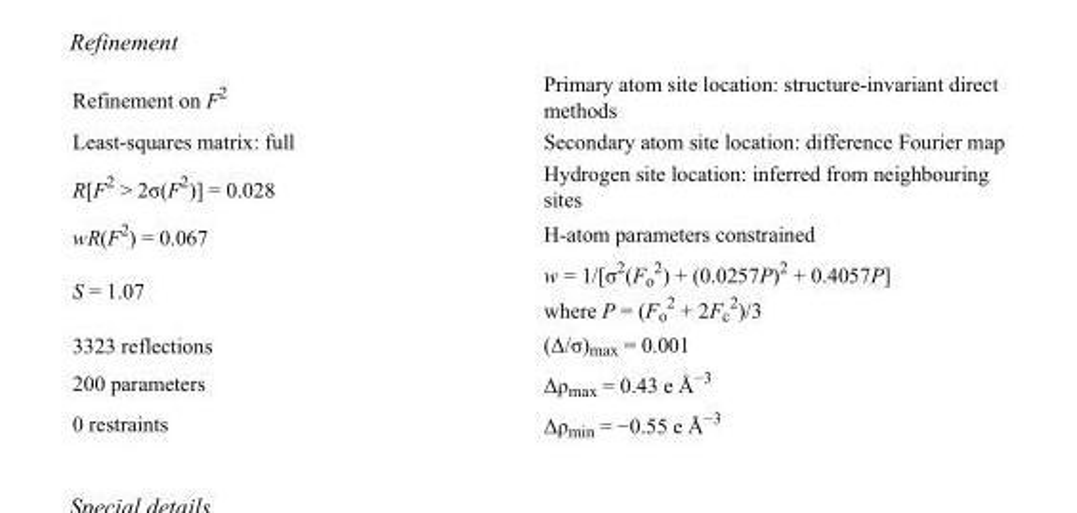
<table><tbody><tr><td>Refinement on F<sup>2</sup></td><td>Primary atom site location: structure-invariant direct methods</td></tr><tr><td>Least-squares matrix: full</td><td>Secondary atom site location: difference Fourier map</td></tr><tr><td>R[F<sup>2</sup> &gt; 2σ(F<sup>2</sup>)] = 0.028</td><td>Hydrogen site location: inferred from neighbouring sites</td></tr><tr><td>wR(F<sup>2</sup>) = 0.067</td><td>H-atom parameters constrained</td></tr><tr><td>S = 1.07</td><td>w = 1/[σ<sup>2</sup>(F<sub>o</sub> <sup>2</sup>) + (0.0257P)<sup>2</sup> + 0.4057P] where P = (F<sub>o</sub> <sup>2</sup> + 2F<sub>c</sub> <sup>2</sup>)/3</td></tr><tr><td>3323 reflections</td><td>(Δ/σ)<sub>max</sub> = 0.001</td></tr><tr><td>200 parameters</td><td>Δρ<sub>max</sub> = 0.43 e Å<sup>−3</sup></td></tr><tr><td>0 restraints</td><td>Δρ<sub>min</sub> = −0.55 e Å<sup>−3</sup></td></tr></tbody></table>